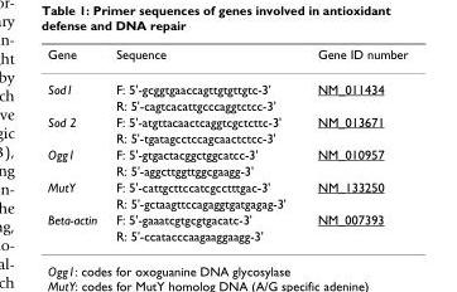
<table><thead><tr><td>Gene</td><td>Sequence</td><td>Gene ID number</td></tr></thead><tbody><tr><td rowspan="2">Sod1</td><td>F: 5&#x27;-gcggtgaaccagttgtgttgtc-3&#x27;</td><td>NM_011434</td></tr><tr><td>R: 5&#x27;-cagtcacattgcccaggtctcc-3&#x27;</td><td></td></tr><tr><td rowspan="2">Sod 2</td><td>F: 5&#x27;-atgttacaactcaggtcgctcttc-3&#x27;</td><td>NM_013671</td></tr><tr><td>R: 5&#x27;-tgatagcctccagcaactctcc-3&#x27;</td><td></td></tr><tr><td rowspan="2">Ogg1</td><td>F: 5&#x27;-gtgactacggctggcatcc-3&#x27;</td><td>NM_010957</td></tr><tr><td>R: 5&#x27;-aggcttggttggcgaagg-3&#x27;</td><td></td></tr><tr><td rowspan="2">MutY</td><td>F: 5&#x27;-cattgcttccatcgcctttgac-3&#x27;</td><td>NM_133250</td></tr><tr><td>R: 5&#x27;-gctaagttccagaggtgatgagag-3&#x27;</td><td></td></tr><tr><td rowspan="2">Beta-actin</td><td>F: 5&#x27;-gaaatcgtgcgtgacatc-3&#x27;</td><td>NM_007393</td></tr><tr><td>R: 5&#x27;-ccatacccaagaaggaagg-3&#x27;</td><td></td></tr></tbody></table>